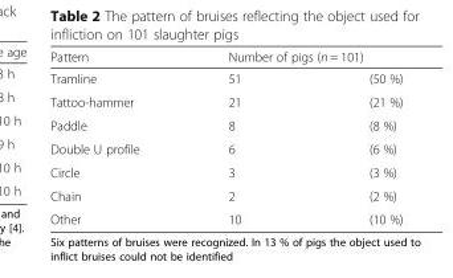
<table><thead><tr><td rowspan="2">Pattern Tramline</td><td colspan="2">Number of pigs (n = 101)</td></tr><tr><td>51</td><td>(50 %)</td></tr></thead><tbody><tr><td>Tattoo-hammer</td><td>21</td><td>(21 %)</td></tr><tr><td>Paddle</td><td>8</td><td>(8 %)</td></tr><tr><td>Double U profile</td><td>6</td><td>(6 %)</td></tr><tr><td>Circle</td><td>3</td><td>(3 %)</td></tr><tr><td>Chain</td><td>2</td><td>(2 %)</td></tr><tr><td>Other</td><td>10</td><td>(10 %)</td></tr></tbody></table>